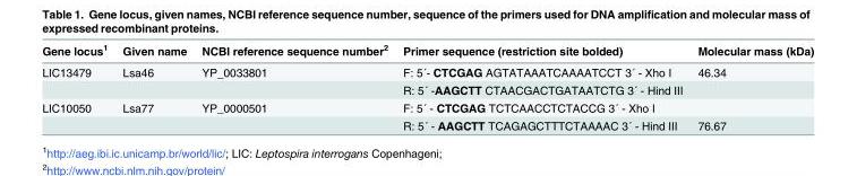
<table><thead><tr><td>Gene locus<sup>1</sup></td><td>Given name</td><td>NCBI reference sequence number<sup>2</sup></td><td>Primer sequence (restriction site bolded)</td><td>Molecular mass (kDa)</td></tr></thead><tbody><tr><td rowspan="2">LIC13479</td><td>Lsa46</td><td>YP_0033801</td><td>F: 5´- CTCGAG AGTATAAATCAAAATCCT 3´ - Xho I</td><td>46.34</td></tr><tr><td></td><td></td><td>R: 5´ -AAGCTT CTAACGACTGATAATCTG 3´ - Hind III</td><td></td></tr><tr><td rowspan="2">LIC10050</td><td>Lsa77</td><td>YP_0000501</td><td>F: 5´ - CTCGAG TCTCAACCTCTACCG 3´ - Xho I</td><td></td></tr><tr><td></td><td></td><td>R: 5´ - AAGCTT TCAGAGCTTTCTAAAAC 3´ - Hind III</td><td>76.67</td></tr></tbody></table>